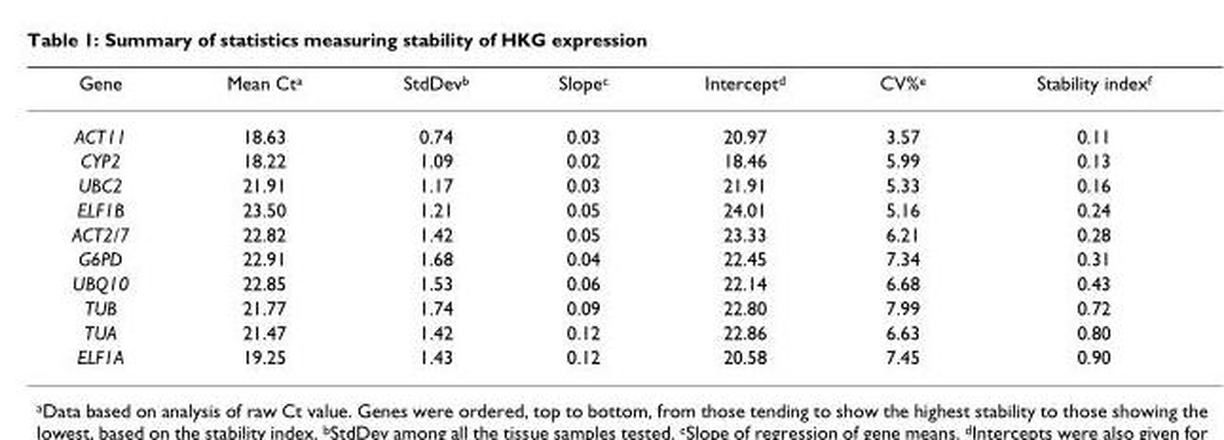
<table><thead><tr><td>Gene</td><td>Mean Ct<sup>a</sup></td><td>StdDev<sup>b</sup></td><td>Slope<sup>c</sup></td><td>Intercept<sup>d</sup></td><td>CV%<sup>e</sup></td><td>Stability index<sup>f</sup></td></tr></thead><tbody><tr><td>ACT11</td><td>18.63</td><td>0.74</td><td>0.03</td><td>20.97</td><td>3.57</td><td>0.11</td></tr><tr><td>CYP2</td><td>18.22</td><td>1.09</td><td>0.02</td><td>18.46</td><td>5.99</td><td>0.13</td></tr><tr><td>UBC2</td><td>21.91</td><td>1.17</td><td>0.03</td><td>21.91</td><td>5.33</td><td>0.16</td></tr><tr><td>ELF1B</td><td>23.50</td><td>1.21</td><td>0.05</td><td>24.01</td><td>5.16</td><td>0.24</td></tr><tr><td>ACT2/7</td><td>22.82</td><td>1.42</td><td>0.05</td><td>23.33</td><td>6.21</td><td>0.28</td></tr><tr><td>G6PD</td><td>22.91</td><td>1.68</td><td>0.04</td><td>22.45</td><td>7.34</td><td>0.31</td></tr><tr><td>UBQ10</td><td>22.85</td><td>1.53</td><td>0.06</td><td>22.14</td><td>6.68</td><td>0.43</td></tr><tr><td>TUB</td><td>21.77</td><td>1.74</td><td>0.09</td><td>22.80</td><td>7.99</td><td>0.72</td></tr><tr><td>TUA</td><td>21.47</td><td>1.42</td><td>0.12</td><td>22.86</td><td>6.63</td><td>0.80</td></tr><tr><td>ELF1A</td><td>19.25</td><td>1.43</td><td>0.12</td><td>20.58</td><td>7.45</td><td>0.90</td></tr></tbody></table>